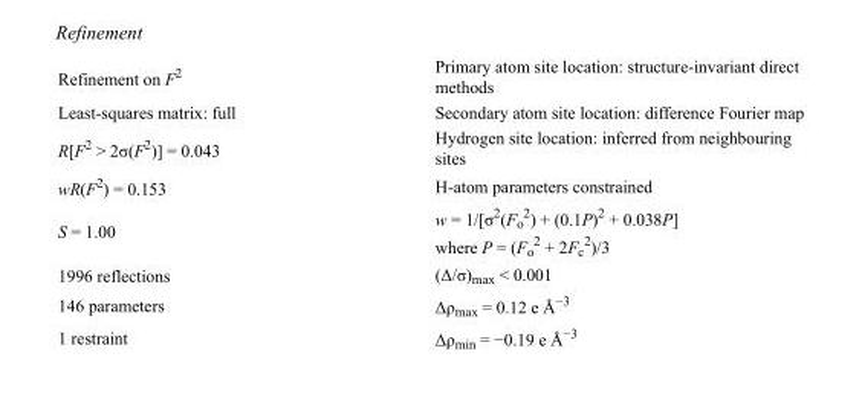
<table><tbody><tr><td>Refinement on F<sup>2</sup></td><td>Primary atom site location: structure-invariant direct methods</td></tr><tr><td>Least-squares matrix: full</td><td>Secondary atom site location: difference Fourier map</td></tr><tr><td>R[F<sup>2</sup> &gt; 2σ(F<sup>2</sup>)] = 0.043</td><td>Hydrogen site location: inferred from neighbouring sites</td></tr><tr><td>wR(F<sup>2</sup>) = 0.153</td><td>H-atom parameters constrained</td></tr><tr><td>S = 1.00</td><td>w = 1/[σ<sup>2</sup>(F<sub>o</sub> <sup>2</sup>) + (0.1P)<sup>2</sup> + 0.038P] where P = (F<sub>o</sub> <sup>2</sup> + 2F<sub>c</sub> <sup>2</sup>)/3</td></tr><tr><td>1996 reflections</td><td>(Δ/σ)<sub>max</sub> &lt; 0.001</td></tr><tr><td>146 parameters</td><td>Δρ<sub>max</sub> = 0.12 e Å<sup>−3</sup></td></tr><tr><td>1 restraint</td><td>Δρ<sub>min</sub> = −0.19 e Å<sup>−3</sup></td></tr></tbody></table>